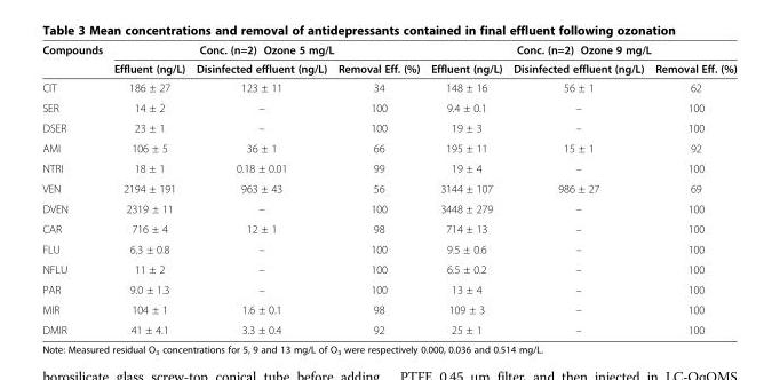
<table><thead><tr><td rowspan="2">Compounds</td><td colspan="3">Conc. (n=2) Ozone 5 mg/L</td><td colspan="3">Conc. (n=2) Ozone 9 mg/L</td></tr><tr><td>Effluent (ng/L)</td><td>Disinfected effluent (ng/L)</td><td>Removal Eff. (%)</td><td>Effluent (ng/L)</td><td>Disinfected effluent (ng/L)</td><td>Removal Eff. (%)</td></tr></thead><tbody><tr><td>CIT</td><td>186 ± 27</td><td>123 ± 11</td><td>34</td><td>148 ± 16</td><td>56 ± 1</td><td>62</td></tr><tr><td>SER</td><td>14 ± 2</td><td>–</td><td>100</td><td>9.4 ± 0.1</td><td>–</td><td>100</td></tr><tr><td>DSER</td><td>23 ± 1</td><td>–</td><td>100</td><td>19 ± 3</td><td>–</td><td>100</td></tr><tr><td>AMI</td><td>106 ± 5</td><td>36 ± 1</td><td>66</td><td>195 ± 11</td><td>15 ± 1</td><td>92</td></tr><tr><td>NTRI</td><td>18 ± 1</td><td>0.18 ± 0.01</td><td>99</td><td>19 ± 4</td><td>–</td><td>100</td></tr><tr><td>VEN</td><td>2194 ± 191</td><td>963 ± 43</td><td>56</td><td>3144 ± 107</td><td>986 ± 27</td><td>69</td></tr><tr><td>DVEN</td><td>2319 ± 11</td><td>–</td><td>100</td><td>3448 ± 279</td><td>–</td><td>100</td></tr><tr><td>CAR</td><td>716 ± 4</td><td>12 ± 1</td><td>98</td><td>714 ± 13</td><td>–</td><td>100</td></tr><tr><td>FLU</td><td>6.3 ± 0.8</td><td>–</td><td>100</td><td>9.5 ± 0.6</td><td>–</td><td>100</td></tr><tr><td>NFLU</td><td>11 ± 2</td><td>–</td><td>100</td><td>6.5 ± 0.2</td><td>–</td><td>100</td></tr><tr><td>PAR</td><td>9.0 ± 1.3</td><td>–</td><td>100</td><td>13 ± 4</td><td>–</td><td>100</td></tr><tr><td>MIR</td><td>104 ± 1</td><td>1.6 ± 0.1</td><td>98</td><td>109 ± 3</td><td>–</td><td>100</td></tr><tr><td>DMIR</td><td>41 ± 4.1</td><td>3.3 ± 0.4</td><td>92</td><td>25 ± 1</td><td>–</td><td>100</td></tr></tbody></table>